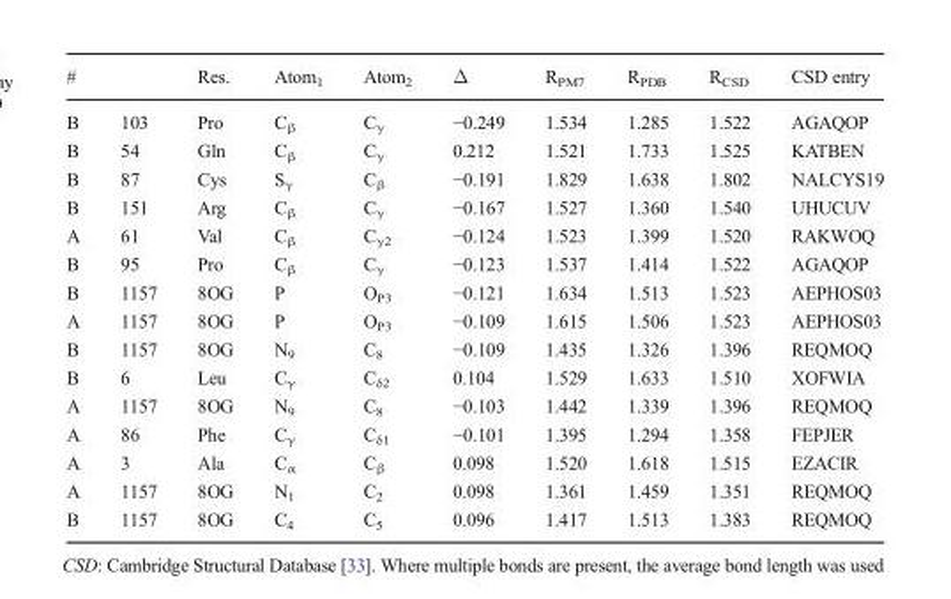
<table><thead><tr><td colspan="2">#</td><td rowspan="2">Res. Pro</td><td rowspan="2">Atom<sub>1</sub> C<sub>β</sub></td><td rowspan="2">Atom<sub>2</sub> C<sub>γ</sub></td><td rowspan="2">Δ −0.249</td><td rowspan="2">R<sub>PM7</sub> 1.534</td><td rowspan="2">R<sub>PDB</sub> 1.285</td><td rowspan="2">R<sub>CSD</sub> 1.522</td><td rowspan="2">CSD entry AGAQOP</td></tr><tr><td>B</td><td>103</td></tr></thead><tbody><tr><td>B</td><td>54</td><td>Gln</td><td>C<sub>β</sub></td><td>C<sub>γ</sub></td><td>0.212</td><td>1.521</td><td>1.733</td><td>1.525</td><td>KATBEN</td></tr><tr><td>B</td><td>87</td><td>Cys</td><td>S<sub>γ</sub></td><td>C<sub>β</sub></td><td>−0.191</td><td>1.829</td><td>1.638</td><td>1.802</td><td>NALCYS19</td></tr><tr><td>B</td><td>151</td><td>Arg</td><td>C<sub>β</sub></td><td>C<sub>γ</sub></td><td>−0.167</td><td>1.527</td><td>1.360</td><td>1.540</td><td>UHUCUV</td></tr><tr><td>A</td><td>61</td><td>Val</td><td>C<sub>β</sub></td><td>C<sub>γ2</sub></td><td>−0.124</td><td>1.523</td><td>1.399</td><td>1.520</td><td>RAKWOQ</td></tr><tr><td>B</td><td>95</td><td>Pro</td><td>C<sub>β</sub></td><td>C<sub>γ</sub></td><td>−0.123</td><td>1.537</td><td>1.414</td><td>1.522</td><td>AGAQOP</td></tr><tr><td>B</td><td>1157</td><td>8OG</td><td>P</td><td>O<sub>P3</sub></td><td>−0.121</td><td>1.634</td><td>1.513</td><td>1.523</td><td>AEPHOS03</td></tr><tr><td>A</td><td>1157</td><td>8OG</td><td>P</td><td>O<sub>P3</sub></td><td>−0.109</td><td>1.615</td><td>1.506</td><td>1.523</td><td>AEPHOS03</td></tr><tr><td>B</td><td>1157</td><td>8OG</td><td>N<sub>9</sub></td><td>C<sub>8</sub></td><td>−0.109</td><td>1.435</td><td>1.326</td><td>1.396</td><td>REQMOQ</td></tr><tr><td>B</td><td>6</td><td>Leu</td><td>C<sub>γ</sub></td><td>C<sub>δ2</sub></td><td>0.104</td><td>1.529</td><td>1.633</td><td>1.510</td><td>XOFWIA</td></tr><tr><td>A</td><td>1157</td><td>8OG</td><td>N<sub>9</sub></td><td>C<sub>8</sub></td><td>−0.103</td><td>1.442</td><td>1.339</td><td>1.396</td><td>REQMOQ</td></tr><tr><td>A</td><td>86</td><td>Phe</td><td>C<sub>γ</sub></td><td>C<sub>δ1</sub></td><td>−0.101</td><td>1.395</td><td>1.294</td><td>1.358</td><td>FEPJER</td></tr><tr><td>A</td><td>3</td><td>Ala</td><td>C<sub>α</sub></td><td>C<sub>β</sub></td><td>0.098</td><td>1.520</td><td>1.618</td><td>1.515</td><td>EZACIR</td></tr><tr><td>A</td><td>1157</td><td>8OG</td><td>N<sub>1</sub></td><td>C<sub>2</sub></td><td>0.098</td><td>1.361</td><td>1.459</td><td>1.351</td><td>REQMOQ</td></tr><tr><td>B</td><td>1157</td><td>8OG</td><td>C<sub>4</sub></td><td>C<sub>5</sub></td><td>0.096</td><td>1.417</td><td>1.513</td><td>1.383</td><td>REQMOQ</td></tr></tbody></table>